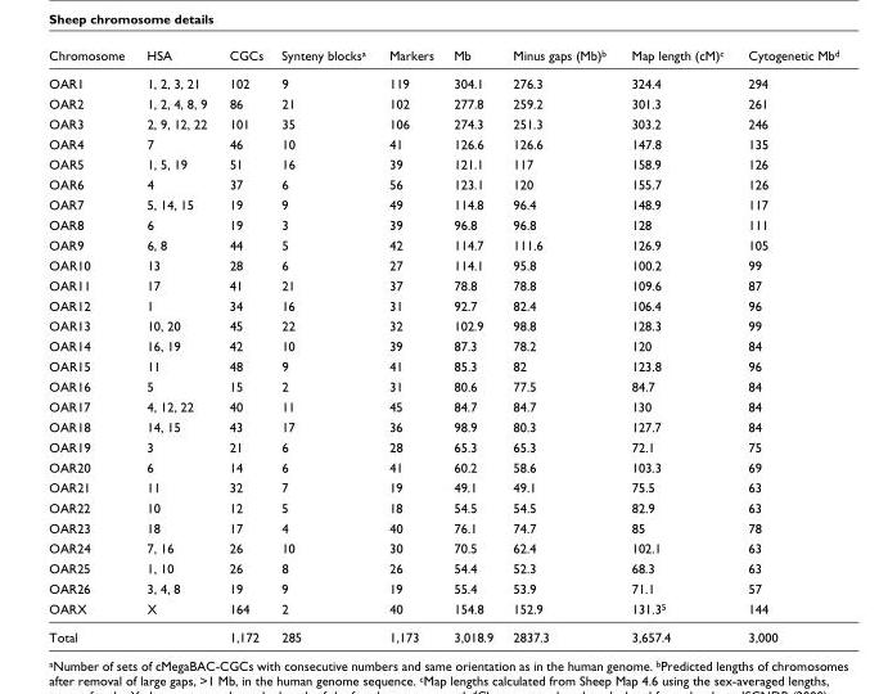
<table><thead><tr><td>Chromosome</td><td>HSA</td><td>CGCs</td><td>Synteny blocks<sup>a</sup></td><td>Markers</td><td>Mb</td><td>Minus gaps (Mb)<sup>b</sup></td><td>Map length (cM)<sup>c</sup></td><td>Cytogenetic Mb<sup>d</sup></td></tr></thead><tbody><tr><td>OAR1</td><td>1, 2, 3, 21</td><td>102</td><td>9</td><td>119</td><td>304.1</td><td>276.3</td><td>324.4</td><td>294</td></tr><tr><td>OAR2</td><td>1, 2, 4, 8, 9</td><td>86</td><td>21</td><td>102</td><td>277.8</td><td>259.2</td><td>301.3</td><td>261</td></tr><tr><td>OAR3</td><td>2, 9, 12, 22</td><td>101</td><td>35</td><td>106</td><td>274.3</td><td>251.3</td><td>303.2</td><td>246</td></tr><tr><td>OAR4</td><td>7</td><td>46</td><td>10</td><td>41</td><td>126.6</td><td>126.6</td><td>147.8</td><td>135</td></tr><tr><td>OAR5</td><td>1, 5, 19</td><td>51</td><td>16</td><td>39</td><td>121.1</td><td>117</td><td>158.9</td><td>126</td></tr><tr><td>OAR6</td><td>4</td><td>37</td><td>6</td><td>56</td><td>123.1</td><td>120</td><td>155.7</td><td>126</td></tr><tr><td>OAR7</td><td>5, 14, 15</td><td>19</td><td>9</td><td>49</td><td>114.8</td><td>96.4</td><td>148.9</td><td>117</td></tr><tr><td>OAR8</td><td>6</td><td>19</td><td>3</td><td>39</td><td>96.8</td><td>96.8</td><td>128</td><td>111</td></tr><tr><td>OAR9</td><td>6, 8</td><td>44</td><td>5</td><td>42</td><td>114.7</td><td>111.6</td><td>126.9</td><td>105</td></tr><tr><td>OAR10</td><td>13</td><td>28</td><td>6</td><td>27</td><td>114.1</td><td>95.8</td><td>100.2</td><td>99</td></tr><tr><td>OAR11</td><td>17</td><td>41</td><td>21</td><td>37</td><td>78.8</td><td>78.8</td><td>109.6</td><td>87</td></tr><tr><td>OAR12</td><td>1</td><td>34</td><td>16</td><td>31</td><td>92.7</td><td>82.4</td><td>106.4</td><td>96</td></tr><tr><td>OAR13</td><td>10, 20</td><td>45</td><td>22</td><td>32</td><td>102.9</td><td>98.8</td><td>128.3</td><td>99</td></tr><tr><td>OAR14</td><td>16, 19</td><td>42</td><td>10</td><td>39</td><td>87.3</td><td>78.2</td><td>120</td><td>84</td></tr><tr><td>OAR15</td><td>11</td><td>48</td><td>9</td><td>41</td><td>85.3</td><td>82</td><td>123.8</td><td>96</td></tr><tr><td>OAR16</td><td>5</td><td>15</td><td>2</td><td>31</td><td>80.6</td><td>77.5</td><td>84.7</td><td>84</td></tr><tr><td>OAR17</td><td>4, 12, 22</td><td>40</td><td>11</td><td>45</td><td>84.7</td><td>84.7</td><td>130</td><td>84</td></tr><tr><td>OAR18</td><td>14, 15</td><td>43</td><td>17</td><td>36</td><td>98.9</td><td>80.3</td><td>127.7</td><td>84</td></tr><tr><td>OAR19</td><td>3</td><td>21</td><td>6</td><td>28</td><td>65.3</td><td>65.3</td><td>72.1</td><td>75</td></tr><tr><td>OAR20</td><td>6</td><td>14</td><td>6</td><td>41</td><td>60.2</td><td>58.6</td><td>103.3</td><td>69</td></tr><tr><td>OAR21</td><td>11</td><td>32</td><td>7</td><td>19</td><td>49.1</td><td>49.1</td><td>75.5</td><td>63</td></tr><tr><td>OAR22</td><td>10</td><td>12</td><td>5</td><td>18</td><td>54.5</td><td>54.5</td><td>82.9</td><td>63</td></tr><tr><td>OAR23</td><td>18</td><td>17</td><td>4</td><td>40</td><td>76.1</td><td>74.7</td><td>85</td><td>78</td></tr><tr><td>OAR24</td><td>7, 16</td><td>26</td><td>10</td><td>30</td><td>70.5</td><td>62.4</td><td>102.1</td><td>63</td></tr><tr><td>OAR25</td><td>1, 10</td><td>26</td><td>8</td><td>26</td><td>54.4</td><td>52.3</td><td>68.3</td><td>63</td></tr><tr><td>OAR26</td><td>3, 4, 8</td><td>19</td><td>9</td><td>19</td><td>55.4</td><td>53.9</td><td>71.1</td><td>57</td></tr><tr><td>OARX</td><td>X</td><td>164</td><td>2</td><td>40</td><td>154.8</td><td>152.9</td><td>131.3<sup>5</sup></td><td>144</td></tr><tr><td>Total</td><td></td><td>1,172</td><td>285</td><td>1,173</td><td>3,018.9</td><td>2837.3</td><td>3,657.4</td><td>3,000</td></tr></tbody></table>